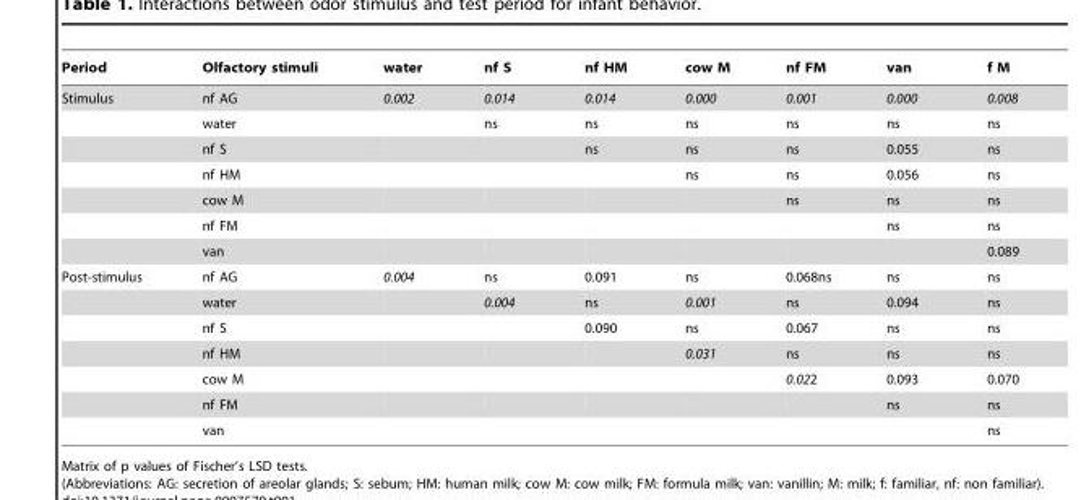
<table><thead><tr><td>Period</td><td>Olfactory stimuli</td><td>water</td><td>nf S</td><td>nf HM</td><td>cow M</td><td>nf FM</td><td>van</td><td>f M</td></tr></thead><tbody><tr><td rowspan="7">Stimulus</td><td>nf AG</td><td>0.002</td><td>0.014</td><td>0.014</td><td>0.000</td><td>0.001</td><td>0.000</td><td>0.008</td></tr><tr><td>water</td><td></td><td>ns</td><td>ns</td><td>ns</td><td>ns</td><td>ns</td><td>ns</td></tr><tr><td>nf S</td><td></td><td></td><td>ns</td><td>ns</td><td>ns</td><td>0.055</td><td>ns</td></tr><tr><td>nf HM</td><td></td><td></td><td></td><td>ns</td><td>ns</td><td>0.056</td><td>ns</td></tr><tr><td>cow M</td><td></td><td></td><td></td><td></td><td>ns</td><td>ns</td><td>ns</td></tr><tr><td>nf FM</td><td></td><td></td><td></td><td></td><td></td><td>ns</td><td>ns</td></tr><tr><td>van</td><td></td><td></td><td></td><td></td><td></td><td></td><td>0.089</td></tr><tr><td rowspan="7">Post-stimulus</td><td>nf AG</td><td>0.004</td><td>ns</td><td>0.091</td><td>ns</td><td>0.068ns</td><td>ns</td><td>ns</td></tr><tr><td>water</td><td></td><td>0.004</td><td>ns</td><td>0.001</td><td>ns</td><td>0.094</td><td>ns</td></tr><tr><td>nf S</td><td></td><td></td><td>0.090</td><td>ns</td><td>0.067</td><td>ns</td><td>ns</td></tr><tr><td>nf HM</td><td></td><td></td><td></td><td>0.031</td><td>ns</td><td>ns</td><td>ns</td></tr><tr><td>cow M</td><td></td><td></td><td></td><td></td><td>0.022</td><td>0.093</td><td>0.070</td></tr><tr><td>nf FM</td><td></td><td></td><td></td><td></td><td></td><td>ns</td><td>ns</td></tr><tr><td>van</td><td></td><td></td><td></td><td></td><td></td><td></td><td>ns</td></tr></tbody></table>